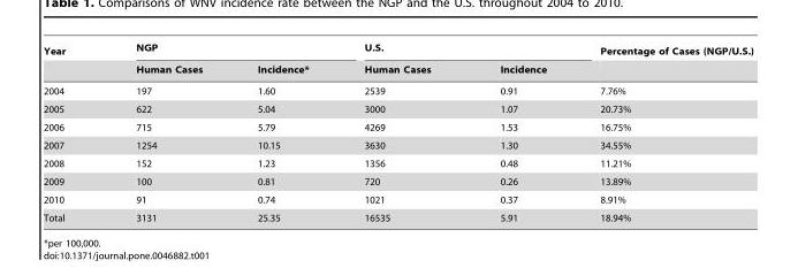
<table><thead><tr><td rowspan="2">Year</td><td colspan="2">NGP</td><td colspan="2">U.S.</td><td rowspan="2">Percentage of Cases (NGP/U.S.)</td></tr><tr><td>Human Cases</td><td>Incidence*</td><td>Human Cases</td><td>Incidence</td></tr></thead><tbody><tr><td>2004</td><td>197</td><td>1.60</td><td>2539</td><td>0.91</td><td>7.76%</td></tr><tr><td>2005</td><td>622</td><td>5.04</td><td>3000</td><td>1.07</td><td>20.73%</td></tr><tr><td>2006</td><td>715</td><td>5.79</td><td>4269</td><td>1.53</td><td>16.75%</td></tr><tr><td>2007</td><td>1254</td><td>10.15</td><td>3630</td><td>1.30</td><td>34.55%</td></tr><tr><td>2008</td><td>152</td><td>1.23</td><td>1356</td><td>0.48</td><td>11.21%</td></tr><tr><td>2009</td><td>100</td><td>0.81</td><td>720</td><td>0.26</td><td>13.89%</td></tr><tr><td>2010</td><td>91</td><td>0.74</td><td>1021</td><td>0.37</td><td>8.91%</td></tr><tr><td>Total</td><td>3131</td><td>25.35</td><td>16535</td><td>5.91</td><td>18.94%</td></tr></tbody></table>